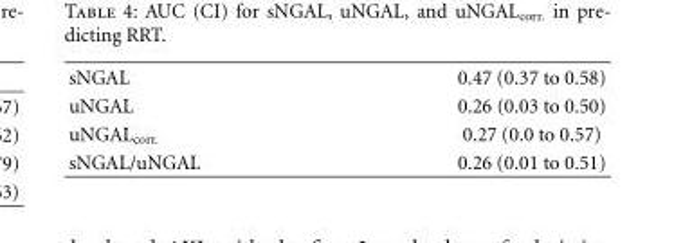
<table><tbody><tr><td>sNGAL</td><td>0.47 (0.37 to 0.58)</td></tr><tr><td>uNGAL</td><td>0.26 (0.03 to 0.50)</td></tr><tr><td>uNGAL<sub>corr.</sub></td><td>0.27 (0.0 to 0.57)</td></tr><tr><td>sNGAL/uNGAL</td><td>0.26 (0.01 to 0.51)</td></tr></tbody></table>